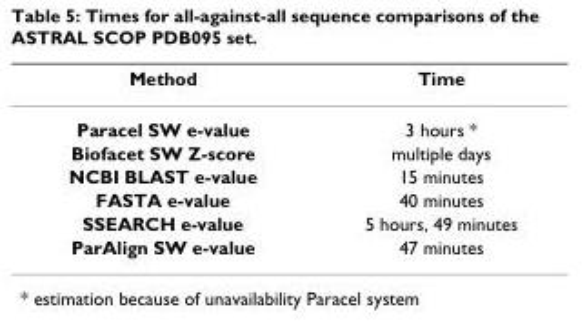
<table><thead><tr><td>Method</td><td>Time</td></tr></thead><tbody><tr><td>Paracel SW e-value</td><td>3 hours *</td></tr><tr><td>Biofacet SW Z-score</td><td>multiple days</td></tr><tr><td>NCBI BLAST e-value</td><td>15 minutes</td></tr><tr><td>FASTA e-value</td><td>40 minutes</td></tr><tr><td>SSEARCH e-value</td><td>5 hours, 49 minutes</td></tr><tr><td>ParAlign SW e-value</td><td>47 minutes</td></tr></tbody></table>